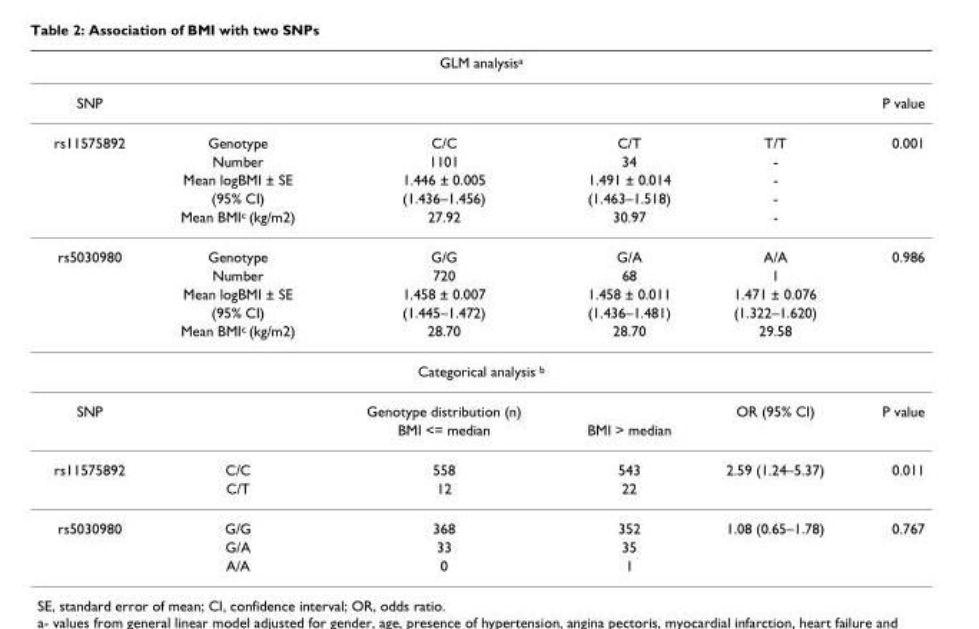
<table><thead><tr><td colspan="6">GLM analysis<sup>a</sup></td></tr><tr><td>SNP</td><td></td><td></td><td></td><td></td><td>P value</td></tr></thead><tbody><tr><td rowspan="5">rs11575892</td><td>Genotype</td><td>C/C</td><td>C/T</td><td>T/T</td><td>0.001</td></tr><tr><td>Number</td><td>1101</td><td>34</td><td>-</td><td></td></tr><tr><td>Mean logBMI ± SE</td><td>1.446 ± 0.005</td><td>1.491 ± 0.014</td><td>-</td><td></td></tr><tr><td>(95% CI)</td><td>(1.436–1.456)</td><td>(1.463–1.518)</td><td>-</td><td></td></tr><tr><td>Mean BMI<sup>c</sup> (kg/m2)</td><td>27.92</td><td>30.97</td><td>-</td><td></td></tr><tr><td rowspan="5">rs5030980</td><td>Genotype</td><td>G/G</td><td>G/A</td><td>A/A</td><td>0.986</td></tr><tr><td>Number</td><td>720</td><td>68</td><td>1</td><td></td></tr><tr><td>Mean logBMI ± SE</td><td>1.458 ± 0.007</td><td>1.458 ± 0.011</td><td>1.471 ± 0.076</td><td></td></tr><tr><td>(95% CI)</td><td>(1.445–1.472)</td><td>(1.436–1.481)</td><td>(1.322–1.620)</td><td></td></tr><tr><td>Mean BMI<sup>c</sup> (kg/m2)</td><td>28.70</td><td>28.70</td><td>29.58</td><td></td></tr><tr><td colspan="6">Categorical analysis <sup>b</sup></td></tr><tr><td rowspan="2">SNP</td><td></td><td>Genotype distribution (n)</td><td></td><td>OR (95% CI)</td><td>P value</td></tr><tr><td></td><td>BMI &lt;= median</td><td>BMI &gt; median</td><td></td><td></td></tr><tr><td rowspan="2">rs11575892</td><td>C/C</td><td>558</td><td>543</td><td>2.59 (1.24–5.37)</td><td>0.011</td></tr><tr><td>C/T</td><td>12</td><td>22</td><td></td><td></td></tr><tr><td rowspan="3">rs5030980</td><td>G/G</td><td>368</td><td>352</td><td>1.08 (0.65–1.78)</td><td>0.767</td></tr><tr><td>G/A</td><td>33</td><td>35</td><td></td><td></td></tr><tr><td>A/A</td><td>0</td><td>1</td><td></td><td></td></tr></tbody></table>